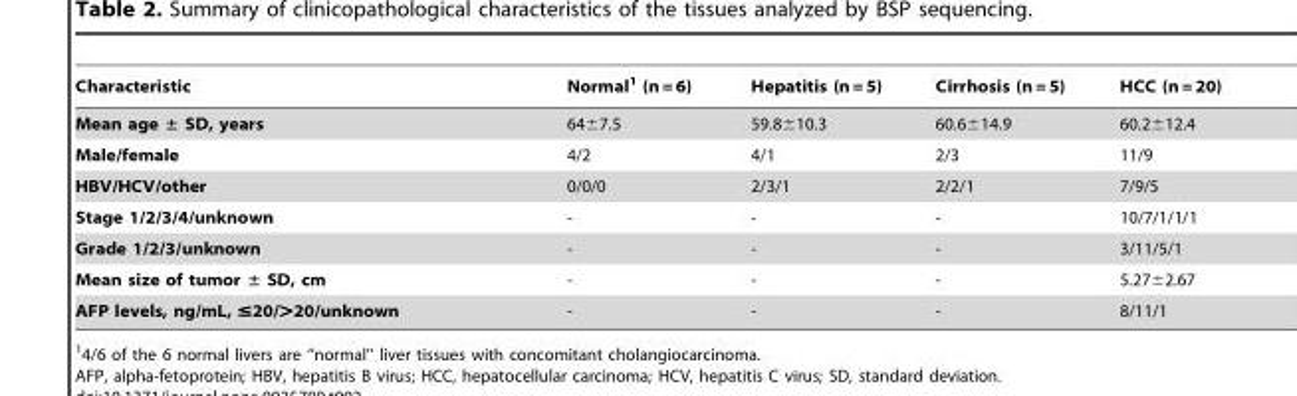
<table><thead><tr><td>Characteristic</td><td>Normal<sup>1</sup> (n = 6)</td><td>Hepatitis (n = 5)</td><td>Cirrhosis (n = 5)</td><td>HCC (n = 20)</td></tr></thead><tbody><tr><td>Mean age ± SD, years</td><td>64±7.5</td><td>59.8±10.3</td><td>60.6±14.9</td><td>60.2±12.4</td></tr><tr><td>Male/female</td><td>4/2</td><td>4/1</td><td>2/3</td><td>11/9</td></tr><tr><td>HBV/HCV/other</td><td>0/0/0</td><td>2/3/1</td><td>2/2/1</td><td>7/9/5</td></tr><tr><td>Stage 1/2/3/4/unknown</td><td>-</td><td>-</td><td>-</td><td>10/7/1/1/1</td></tr><tr><td>Grade 1/2/3/unknown</td><td>-</td><td>-</td><td>-</td><td>3/11/5/1</td></tr><tr><td>Mean size of tumor ± SD, cm</td><td>-</td><td>-</td><td>-</td><td>5.27±2.67</td></tr><tr><td>AFP levels, ng/mL, ≤20/&gt;20/unknown</td><td>-</td><td>-</td><td>-</td><td>8/11/1</td></tr></tbody></table>